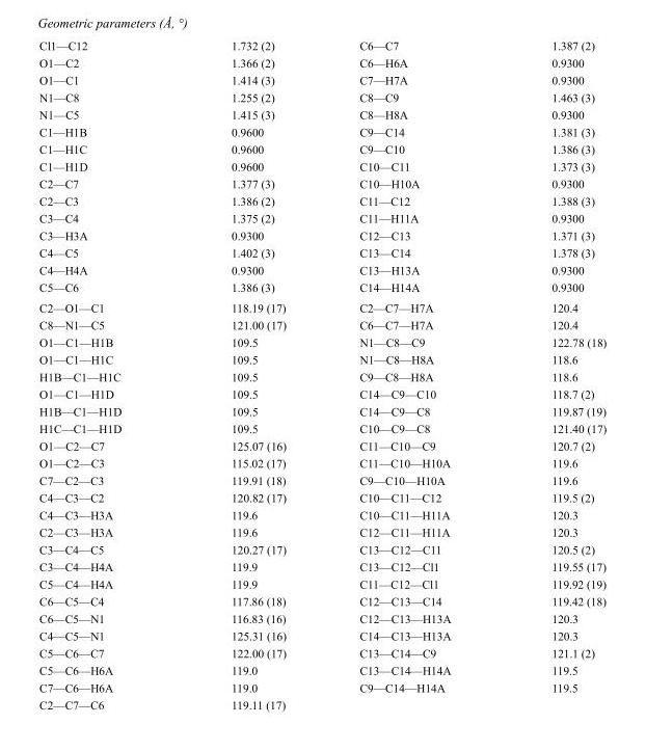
<table><tbody><tr><td>Cl1—C12</td><td>1.732 (2)</td><td>C6—C7</td><td>1.387 (2)</td></tr><tr><td>O1—C2</td><td>1.366 (2)</td><td>C6—H6A</td><td>0.9300</td></tr><tr><td>O1—C1</td><td>1.414 (3)</td><td>C7—H7A</td><td>0.9300</td></tr><tr><td>N1—C8</td><td>1.255 (2)</td><td>C8—C9</td><td>1.463 (3)</td></tr><tr><td>N1—C5</td><td>1.415 (3)</td><td>C8—H8A</td><td>0.9300</td></tr><tr><td>C1—H1B</td><td>0.9600</td><td>C9—C14</td><td>1.381 (3)</td></tr><tr><td>C1—H1C</td><td>0.9600</td><td>C9—C10</td><td>1.386 (3)</td></tr><tr><td>C1—H1D</td><td>0.9600</td><td>C10—C11</td><td>1.373 (3)</td></tr><tr><td>C2—C7</td><td>1.377 (3)</td><td>C10—H10A</td><td>0.9300</td></tr><tr><td>C2—C3</td><td>1.386 (2)</td><td>C11—C12</td><td>1.388 (3)</td></tr><tr><td>C3—C4</td><td>1.375 (2)</td><td>C11—H11A</td><td>0.9300</td></tr><tr><td>C3—H3A</td><td>0.9300</td><td>C12—C13</td><td>1.371 (3)</td></tr><tr><td>C4—C5</td><td>1.402 (3)</td><td>C13—C14</td><td>1.378 (3)</td></tr><tr><td>C4—H4A</td><td>0.9300</td><td>C13—H13A</td><td>0.9300</td></tr><tr><td>C5—C6</td><td>1.386 (3)</td><td>C14—H14A</td><td>0.9300</td></tr><tr><td>C2—O1—C1</td><td>118.19 (17)</td><td>C2—C7—H7A</td><td>120.4</td></tr><tr><td>C8—N1—C5</td><td>121.00 (17)</td><td>C6—C7—H7A</td><td>120.4</td></tr><tr><td>O1—C1—H1B</td><td>109.5</td><td>N1—C8—C9</td><td>122.78 (18)</td></tr><tr><td>O1—C1—H1C</td><td>109.5</td><td>N1—C8—H8A</td><td>118.6</td></tr><tr><td>H1B—C1—H1C</td><td>109.5</td><td>C9—C8—H8A</td><td>118.6</td></tr><tr><td>O1—C1—H1D</td><td>109.5</td><td>C14—C9—C10</td><td>118.7 (2)</td></tr><tr><td>H1B—C1—H1D</td><td>109.5</td><td>C14—C9—C8</td><td>119.87 (19)</td></tr><tr><td>H1C—C1—H1D</td><td>109.5</td><td>C10—C9—C8</td><td>121.40 (17)</td></tr><tr><td>O1—C2—C7</td><td>125.07 (16)</td><td>C11—C10—C9</td><td>120.7 (2)</td></tr><tr><td>O1—C2—C3</td><td>115.02 (17)</td><td>C11—C10—H10A</td><td>119.6</td></tr><tr><td>C7—C2—C3</td><td>119.91 (18)</td><td>C9—C10—H10A</td><td>119.6</td></tr><tr><td>C4—C3—C2</td><td>120.82 (17)</td><td>C10—C11—C12</td><td>119.5 (2)</td></tr><tr><td>C4—C3—H3A</td><td>119.6</td><td>C10—C11—H11A</td><td>120.3</td></tr><tr><td>C2—C3—H3A</td><td>119.6</td><td>C12—C11—H11A</td><td>120.3</td></tr><tr><td>C3—C4—C5</td><td>120.27 (17)</td><td>C13—C12—C11</td><td>120.5 (2)</td></tr><tr><td>C3—C4—H4A</td><td>119.9</td><td>C13—C12—Cl1</td><td>119.55 (17)</td></tr><tr><td>C5—C4—H4A</td><td>119.9</td><td>C11—C12—Cl1</td><td>119.92 (19)</td></tr><tr><td>C6—C5—C4</td><td>117.86 (18)</td><td>C12—C13—C14</td><td>119.42 (18)</td></tr><tr><td>C6—C5—N1</td><td>116.83 (16)</td><td>C12—C13—H13A</td><td>120.3</td></tr><tr><td>C4—C5—N1</td><td>125.31 (16)</td><td>C14—C13—H13A</td><td>120.3</td></tr><tr><td>C5—C6—C7</td><td>122.00 (17)</td><td>C13—C14—C9</td><td>121.1 (2)</td></tr><tr><td>C5—C6—H6A</td><td>119.0</td><td>C13—C14—H14A</td><td>119.5</td></tr><tr><td>C7—C6—H6A</td><td>119.0</td><td>C9—C14—H14A</td><td>119.5</td></tr><tr><td>C2—C7—C6</td><td>119.11 (17)</td><td></td><td></td></tr></tbody></table>